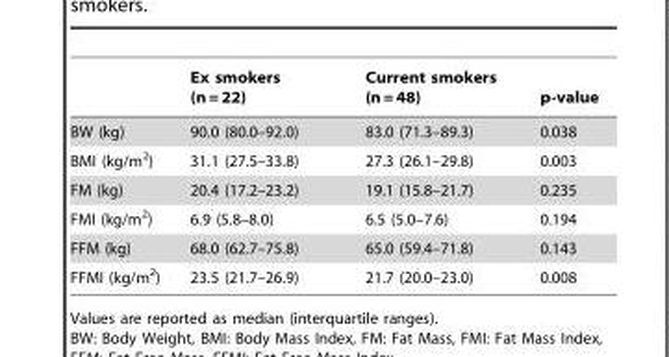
<table><thead><tr><td></td><td>Ex smokers (n = 22)</td><td>Current smokers (n = 48)</td><td>p-value</td></tr></thead><tbody><tr><td>BW (kg)</td><td>90.0 (80.0–92.0)</td><td>83.0 (71.3–89.3)</td><td>0.038</td></tr><tr><td>BMI (kg/m<sup>2</sup>)</td><td>31.1 (27.5–33.8)</td><td>27.3 (26.1–29.8)</td><td>0.003</td></tr><tr><td>FM (kg)</td><td>20.4 (17.2–23.2)</td><td>19.1 (15.8–21.7)</td><td>0.235</td></tr><tr><td>FMI (kg/m<sup>2</sup>)</td><td>6.9 (5.8–8.0)</td><td>6.5 (5.0–7.6)</td><td>0.194</td></tr><tr><td>FFM (kg)</td><td>68.0 (62.7–75.8)</td><td>65.0 (59.4–71.8)</td><td>0.143</td></tr><tr><td>FFMI (kg/m<sup>2</sup>)</td><td>23.5 (21.7–26.9)</td><td>21.7 (20.0–23.0)</td><td>0.008</td></tr></tbody></table>